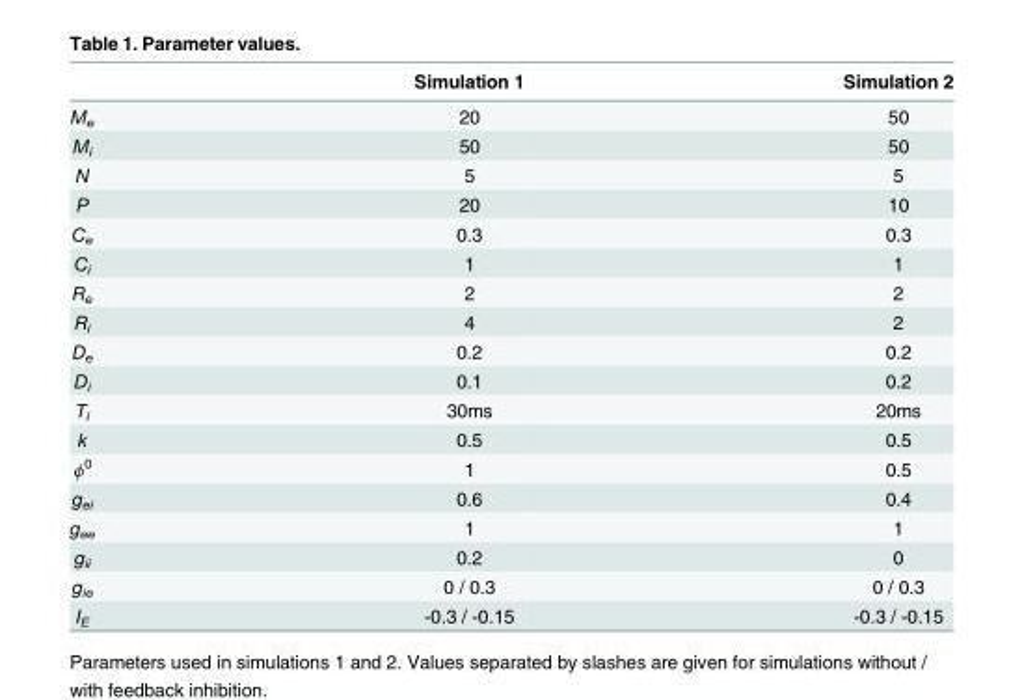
<table><thead><tr><td></td><td>Simulation 1</td><td>Simulation 2</td></tr></thead><tbody><tr><td>M<sub>e</sub></td><td>20</td><td>50</td></tr><tr><td>M<sub>i</sub></td><td>50</td><td>50</td></tr><tr><td>N</td><td>5</td><td>5</td></tr><tr><td>P</td><td>20</td><td>10</td></tr><tr><td>C<sub>e</sub></td><td>0.3</td><td>0.3</td></tr><tr><td>C<sub>i</sub></td><td>1</td><td>1</td></tr><tr><td>R<sub>e</sub></td><td>2</td><td>2</td></tr><tr><td>R<sub>i</sub></td><td>4</td><td>2</td></tr><tr><td>D<sub>e</sub></td><td>0.2</td><td>0.2</td></tr><tr><td>D<sub>i</sub></td><td>0.1</td><td>0.2</td></tr><tr><td>T<sub>i</sub></td><td>30ms</td><td>20ms</td></tr><tr><td>k</td><td>0.5</td><td>0.5</td></tr><tr><td>ϕ<sup>0</sup></td><td>1</td><td>0.5</td></tr><tr><td>g<sub>ei</sub></td><td>0.6</td><td>0.4</td></tr><tr><td>g<sub>ee</sub></td><td>1</td><td>1</td></tr><tr><td>g<sub>ii</sub></td><td>0.2</td><td>0</td></tr><tr><td>g<sub>ie</sub></td><td>0 / 0.3</td><td>0 / 0.3</td></tr><tr><td>I<sub>E</sub></td><td>-0.3 / -0.15</td><td>-0.3 / -0.15</td></tr></tbody></table>